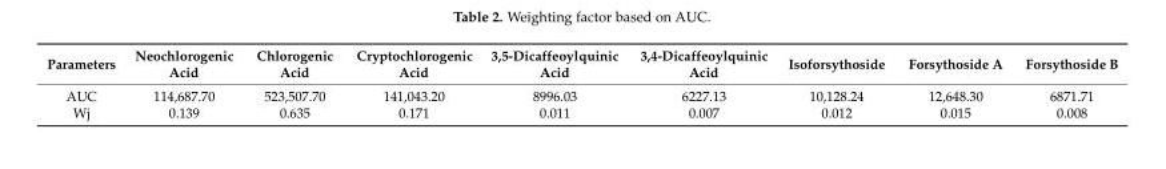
<table><thead><tr><td>Parameters</td><td>Neochlorogenic Acid</td><td>Chlorogenic Acid</td><td>Cryptochlorogenic Acid</td><td>3,5-Dicaffeoylquinic Acid</td><td>3,4-Dicaffeoylquinic Acid</td><td>Isoforsythoside</td><td>Forsythoside A</td><td>Forsythoside B</td></tr></thead><tbody><tr><td>AUC</td><td>114,687.70</td><td>523,507.70</td><td>141,043.20</td><td>8996.03</td><td>6227.13</td><td>10,128.24</td><td>12,648.30</td><td>6871.71</td></tr><tr><td>Wj</td><td>0.139</td><td>0.635</td><td>0.171</td><td>0.011</td><td>0.007</td><td>0.012</td><td>0.015</td><td>0.008</td></tr></tbody></table>